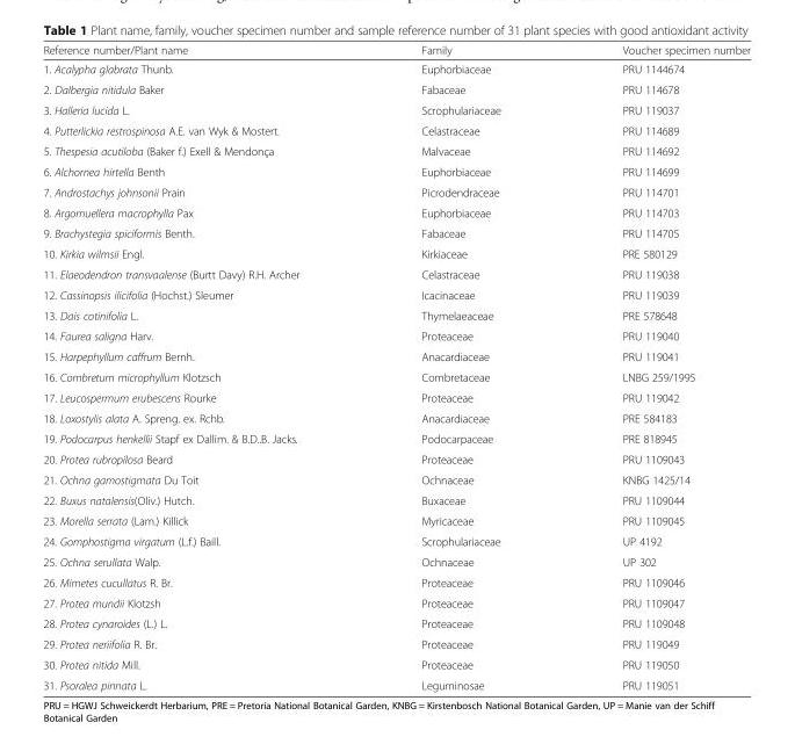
<table><thead><tr><td>Reference number/Plant name</td><td>Family</td><td>Voucher specimen number</td></tr></thead><tbody><tr><td>1. Acalypha glabrata Thunb.</td><td>Euphorbiaceae</td><td>PRU 1144674</td></tr><tr><td>2. Dalbergia nitidula Baker</td><td>Fabaceae</td><td>PRU 114678</td></tr><tr><td>3. Halleria lucida L.</td><td>Scrophulariaceae</td><td>PRU 119037</td></tr><tr><td>4. Putterlickia restrospinosa A.E. van Wyk &amp; Mostert.</td><td>Celastraceae</td><td>PRU 114689</td></tr><tr><td>5. Thespesia acutiloba (Baker f.) Exell &amp; Mendonça</td><td>Malvaceae</td><td>PRU 114692</td></tr><tr><td>6. Alchornea hirtella Benth</td><td>Euphorbiaceae</td><td>PRU 114699</td></tr><tr><td>7. Androstachys johnsonii Prain</td><td>Picrodendraceae</td><td>PRU 114701</td></tr><tr><td>8. Argomuellera macrophylla Pax</td><td>Euphorbiaceae</td><td>PRU 114703</td></tr><tr><td>9. Brachystegia spiciformis Benth.</td><td>Fabaceae</td><td>PRU 114705</td></tr><tr><td>10. Kirkia wilmsii Engl.</td><td>Kirkiaceae</td><td>PRE 580129</td></tr><tr><td>11. Elaeodendron transvaalense (Burtt Davy) R.H. Archer</td><td>Celastraceae</td><td>PRU 119038</td></tr><tr><td>12. Cassinopsis ilicifolia (Hochst.) Sleumer</td><td>Icacinaceae</td><td>PRU 119039</td></tr><tr><td>13. Dais cotinifolia L.</td><td>Thymelaeaceae</td><td>PRE 578648</td></tr><tr><td>14. Faurea saligna Harv.</td><td>Proteaceae</td><td>PRU 119040</td></tr><tr><td>15. Harpephyllum caffrum Bernh.</td><td>Anacardiaceae</td><td>PRU 119041</td></tr><tr><td>16. Combretum microphyllum Klotzsch</td><td>Combretaceae</td><td>LNBG 259/1995</td></tr><tr><td>17. Leucospermum erubescens Rourke</td><td>Proteaceae</td><td>PRU 119042</td></tr><tr><td>18. Loxostylis alata A. Spreng. ex. Rchb.</td><td>Anacardiaceae</td><td>PRE 584183</td></tr><tr><td>19. Podocarpus henkellii Stapf ex Dallim. &amp; B.D..B. Jacks.</td><td>Podocarpaceae</td><td>PRE 818945</td></tr><tr><td>20. Protea rubropilosa Beard</td><td>Proteaceae</td><td>PRU 1109043</td></tr><tr><td>21. Ochna gamostigmata Du Toit</td><td>Ochnaceae</td><td>KNBG 1425/14</td></tr><tr><td>22. Buxus natalensis(Oliv.) Hutch.</td><td>Buxaceae</td><td>PRU 1109044</td></tr><tr><td>23. Morella serrata (Lam.) Killick</td><td>Myricaceae</td><td>PRU 1109045</td></tr><tr><td>24. Gomphostigma virgatum (L.f.) Baill.</td><td>Scrophulariaceae</td><td>UP 4192</td></tr><tr><td>25. Ochna serullata Walp.</td><td>Ochnaceae</td><td>UP 302</td></tr><tr><td>26. Mimetes cucullatus R. Br.</td><td>Proteaceae</td><td>PRU 1109046</td></tr><tr><td>27. Protea mundii Klotzsh</td><td>Proteaceae</td><td>PRU 1109047</td></tr><tr><td>28. Protea cynaroides (L.) L.</td><td>Proteaceae</td><td>PRU 1109048</td></tr><tr><td>29. Protea neriifolia R. Br.</td><td>Proteaceae</td><td>PRU 119049</td></tr><tr><td>30. Protea nitida Mill.</td><td>Proteaceae</td><td>PRU 119050</td></tr><tr><td>31. Psoralea pinnata L.</td><td>Leguminosae</td><td>PRU 119051</td></tr></tbody></table>